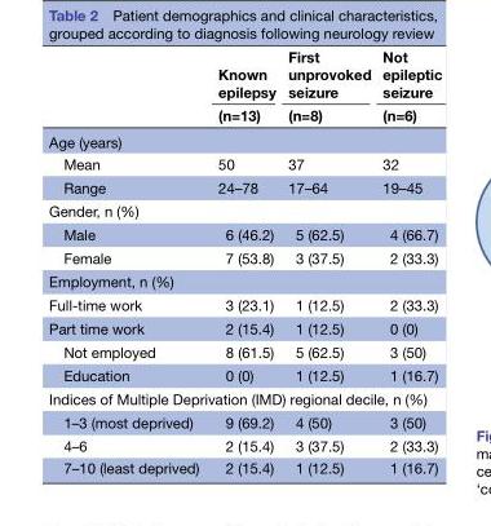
<table><thead><tr><td rowspan="2"></td><td rowspan="2">Known epilepsy (n=13)</td><td rowspan="2">First unprovoked seizure (n=8)</td><td rowspan="2">Not epileptic seizure (n=6)</td></tr><tr></tr></thead><tbody><tr><td colspan="4">Age (years)</td></tr><tr><td>Mean</td><td>50</td><td>37</td><td>32</td></tr><tr><td>Range</td><td>24–78</td><td>17–64</td><td>19–45</td></tr><tr><td colspan="4">Gender, n (%)</td></tr><tr><td>Male</td><td>6 (46.2)</td><td>5 (62.5)</td><td>4 (66.7)</td></tr><tr><td>Female</td><td>7 (53.8)</td><td>3 (37.5)</td><td>2 (33.3)</td></tr><tr><td colspan="4">Employment, n (%)</td></tr><tr><td>Full-time work</td><td>3 (23.1)</td><td>1 (12.5)</td><td>2 (33.3)</td></tr><tr><td>Part time work</td><td>2 (15.4)</td><td>1 (12.5)</td><td>0 (0)</td></tr><tr><td>Not employed</td><td>8 (61.5)</td><td>5 (62.5)</td><td>3 (50)</td></tr><tr><td>Education</td><td>0 (0)</td><td>1 (12.5)</td><td>1 (16.7)</td></tr><tr><td colspan="4">Indices of Multiple Deprivation (IMD) regional decile, n (%)</td></tr><tr><td>1–3 (most deprived)</td><td>9 (69.2)</td><td>4 (50)</td><td>3 (50)</td></tr><tr><td>4–6</td><td>2 (15.4)</td><td>3 (37.5)</td><td>2 (33.3)</td></tr><tr><td>7–10 (least deprived)</td><td>2 (15.4)</td><td>1 (12.5)</td><td>1 (16.7)</td></tr></tbody></table>